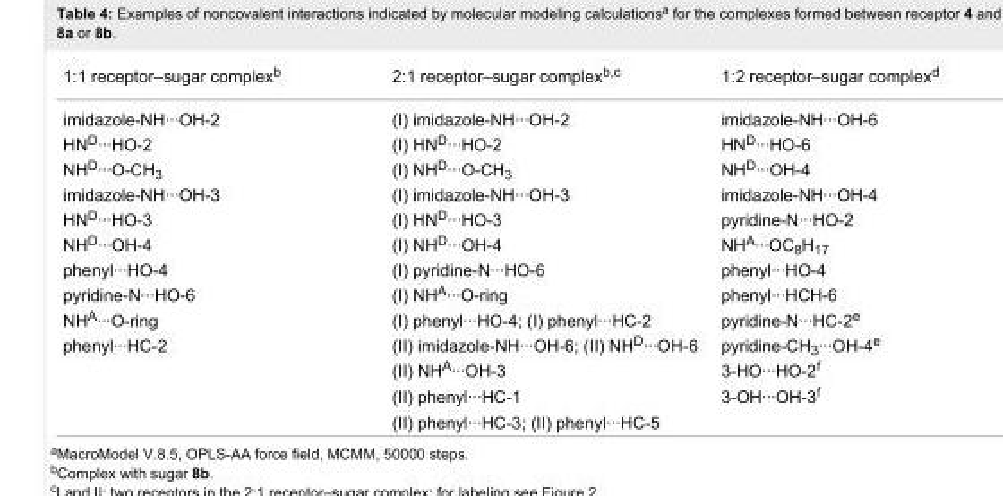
<table><tbody><tr><td>1:1 receptor–sugar complex<sup>b</sup></td><td>2:1 receptor–sugar complex<sup>b,c</sup></td><td>1:2 receptor–sugar complex<sup>d</sup></td></tr><tr><td>imidazole-NH···OH-2</td><td>(I) imidazole-NH···OH-2</td><td>imidazole-NH···OH-6</td></tr><tr><td>HN<sup>D</sup>···HO-2</td><td>(I) HN<sup>D</sup>···HO-2</td><td>HN<sup>D</sup>···HO-6</td></tr><tr><td>NH<sup>D</sup>···O-CH<sub>3</sub></td><td>(I) NH<sup>D</sup>···O-CH<sub>3</sub></td><td>NH<sup>D</sup>···OH-4</td></tr><tr><td>imidazole-NH···OH-3</td><td>(I) imidazole-NH···OH-3</td><td>imidazole-NH···OH-4</td></tr><tr><td>HN<sup>D</sup>···HO-3</td><td>(I) HN<sup>D</sup>···HO-3</td><td>pyridine-N···HO-2</td></tr><tr><td>NH<sup>D</sup>···OH-4</td><td>(I) NH<sup>D</sup>···OH-4</td><td>NH<sup>A</sup>···OC<sub>8</sub>H<sub>17</sub></td></tr><tr><td>phenyl···HO-4</td><td>(I) pyridine-N···HO-6</td><td>phenyl···HO-4</td></tr><tr><td>pyridine-N···HO-6</td><td>(I) NH<sup>A</sup>···O-ring</td><td>phenyl···HCH-6</td></tr><tr><td>NH<sup>A</sup>···O-ring</td><td>(I) phenyl···HO-4; (I) phenyl···HC-2</td><td>pyridine-N···HC-2<sup>e</sup></td></tr><tr><td rowspan="4">phenyl···HC-2</td><td>(II) imidazole-NH···OH-6; (II) NH<sup>D</sup>···OH-6</td><td>pyridine-CH<sub>3</sub>···OH-4<sup>e</sup></td></tr><tr><td>(II) NH<sup>A</sup>···OH-3</td><td>3-HO···HO-2<sup>f</sup></td></tr><tr><td>(II) phenyl···HC-1</td><td>3-OH···OH-3<sup>f</sup></td></tr><tr><td>(II) phenyl···HC-3; (II) phenyl···HC-5</td><td></td></tr></tbody></table>